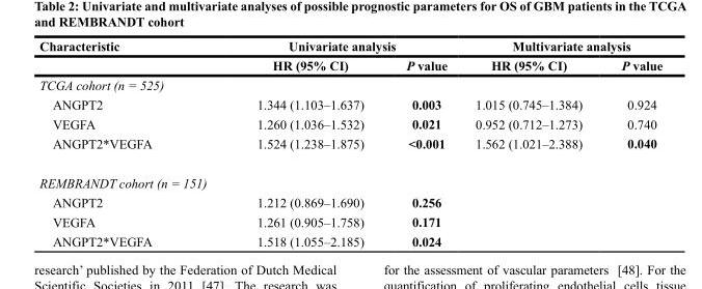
<table><thead><tr><td rowspan="2">Characteristic</td><td colspan="2">Univariate analysis</td><td colspan="2">Multivariate analysis</td></tr><tr><td>HR (95% CI)</td><td>P value</td><td>HR (95% CI)</td><td>P value</td></tr></thead><tbody><tr><td colspan="5">TCGA cohort (n = 525)</td></tr><tr><td>ANGPT2</td><td>1.344 (1.103–1.637)</td><td>0.003</td><td>1.015 (0.745–1.384)</td><td>0.924</td></tr><tr><td>VEGFA</td><td>1.260 (1.036–1.532)</td><td>0.021</td><td>0.952 (0.712–1.273)</td><td>0.740</td></tr><tr><td>ANGPT2*VEGFA</td><td>1.524 (1.238–1.875)</td><td>&lt;0.001</td><td>1.562 (1.021–2.388)</td><td>0.040</td></tr><tr><td colspan="5">REMBRANDT cohort (n = 151)</td></tr><tr><td>ANGPT2</td><td>1.212 (0.869–1.690)</td><td>0.256</td><td></td><td></td></tr><tr><td>VEGFA</td><td>1.261 (0.905–1.758)</td><td>0.171</td><td></td><td></td></tr><tr><td>ANGPT2*VEGFA</td><td>1.518 (1.055–2.185)</td><td>0.024</td><td></td><td></td></tr></tbody></table>